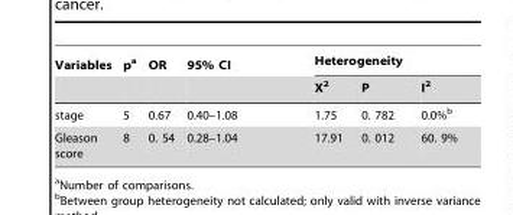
<table><thead><tr><td rowspan="2">Variables</td><td rowspan="2">p<sup>a</sup></td><td rowspan="2">OR</td><td rowspan="2">95% CI</td><td colspan="3">Heterogeneity</td></tr><tr><td>X<sup>2</sup></td><td>P</td><td>I<sup>2</sup></td></tr></thead><tbody><tr><td>stage</td><td>5</td><td>0.67</td><td>0.40–1.08</td><td>1.75</td><td>0. 782</td><td>0.0%<sup>b</sup></td></tr><tr><td>Gleason score</td><td>8</td><td>0. 54</td><td>0.28–1.04</td><td>17.91</td><td>0. 012</td><td>60. 9%</td></tr></tbody></table>